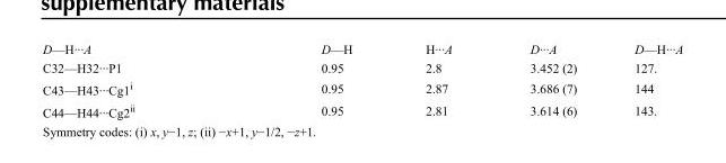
<table><tbody><tr><td>D—H···A</td><td>D—H</td><td>H···A</td><td>D···A</td><td>D—H···A</td></tr><tr><td>C32—H32···P1</td><td>0.95</td><td>2.8</td><td>3.452 (2)</td><td>127.</td></tr><tr><td>C43—H43···Cg1<sup>i</sup></td><td>0.95</td><td>2.87</td><td>3.686 (7)</td><td>144</td></tr><tr><td>C44—H44···Cg2<sup>ii</sup></td><td>0.95</td><td>2.81</td><td>3.614 (6)</td><td>143.</td></tr></tbody></table>